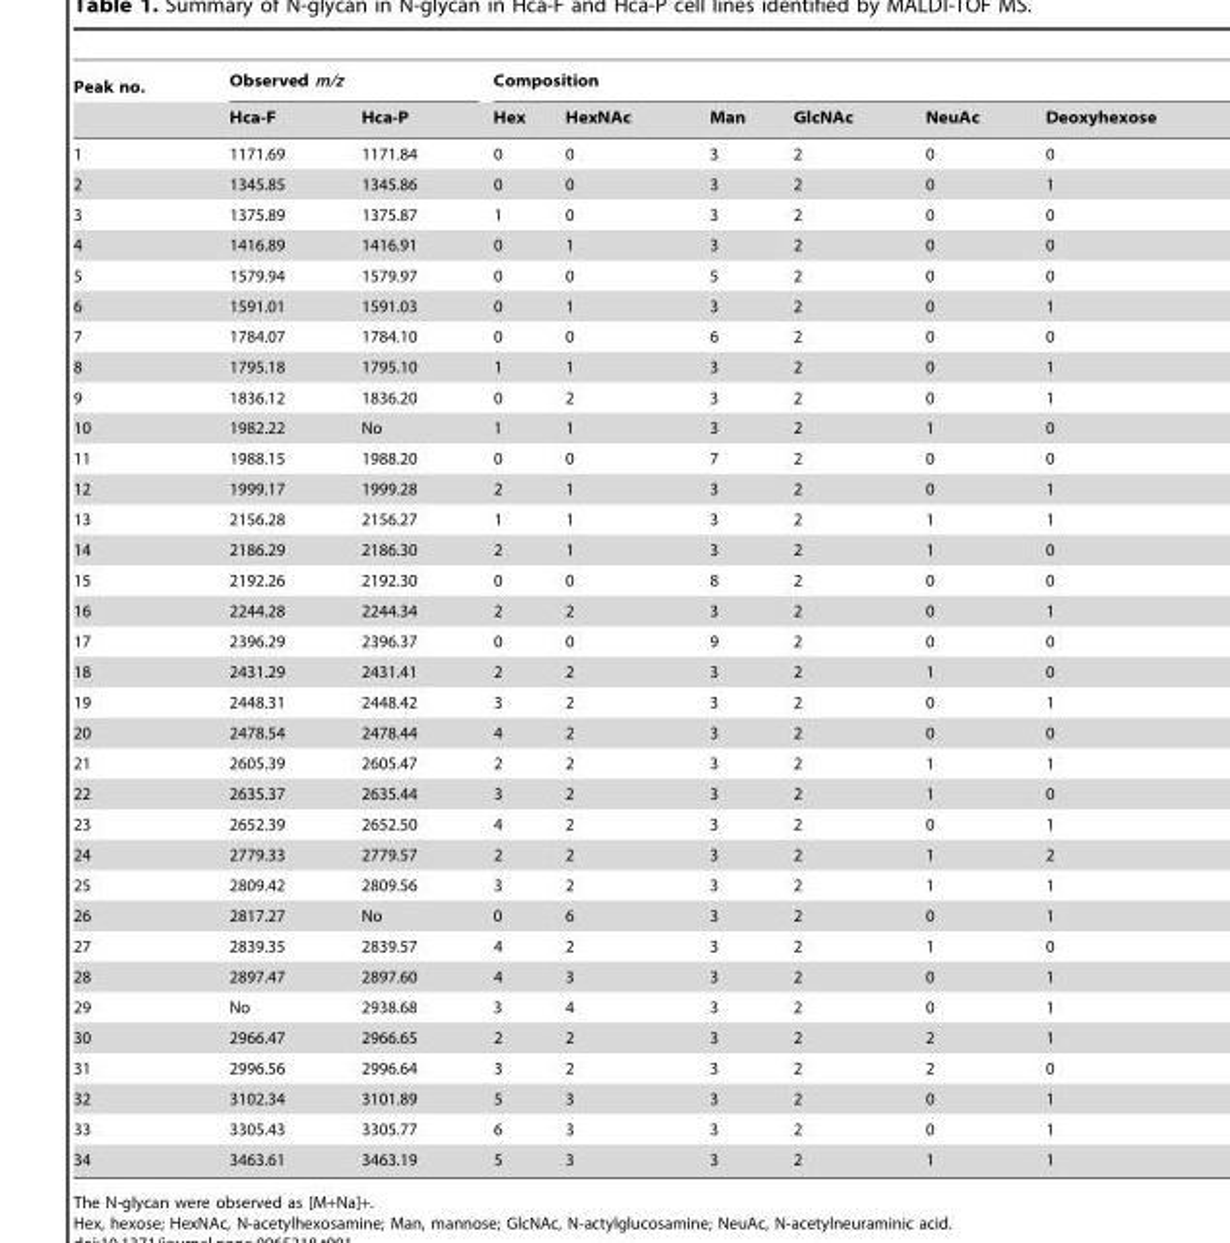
<table><thead><tr><td rowspan="2">Peak no.</td><td colspan="2">Observed m/z</td><td colspan="6">Composition</td></tr><tr><td>Hca-F</td><td>Hca-P</td><td>Hex</td><td>HexNAc</td><td>Man</td><td>GlcNAc</td><td>NeuAc</td><td>Deoxyhexose</td></tr></thead><tbody><tr><td>1</td><td>1171.69</td><td>1171.84</td><td>0</td><td>0</td><td>3</td><td>2</td><td>0</td><td>0</td></tr><tr><td>2</td><td>1345.85</td><td>1345.86</td><td>0</td><td>0</td><td>3</td><td>2</td><td>0</td><td>1</td></tr><tr><td>3</td><td>1375.89</td><td>1375.87</td><td>1</td><td>0</td><td>3</td><td>2</td><td>0</td><td>0</td></tr><tr><td>4</td><td>1416.89</td><td>1416.91</td><td>0</td><td>1</td><td>3</td><td>2</td><td>0</td><td>0</td></tr><tr><td>5</td><td>1579.94</td><td>1579.97</td><td>0</td><td>0</td><td>5</td><td>2</td><td>0</td><td>0</td></tr><tr><td>6</td><td>1591.01</td><td>1591.03</td><td>0</td><td>1</td><td>3</td><td>2</td><td>0</td><td>1</td></tr><tr><td>7</td><td>1784.07</td><td>1784.10</td><td>0</td><td>0</td><td>6</td><td>2</td><td>0</td><td>0</td></tr><tr><td>8</td><td>1795.18</td><td>1795.10</td><td>1</td><td>1</td><td>3</td><td>2</td><td>0</td><td>1</td></tr><tr><td>9</td><td>1836.12</td><td>1836.20</td><td>0</td><td>2</td><td>3</td><td>2</td><td>0</td><td>1</td></tr><tr><td>10</td><td>1982.22</td><td>No</td><td>1</td><td>1</td><td>3</td><td>2</td><td>1</td><td>0</td></tr><tr><td>11</td><td>1988.15</td><td>1988.20</td><td>0</td><td>0</td><td>7</td><td>2</td><td>0</td><td>0</td></tr><tr><td>12</td><td>1999.17</td><td>1999.28</td><td>2</td><td>1</td><td>3</td><td>2</td><td>0</td><td>1</td></tr><tr><td>13</td><td>2156.28</td><td>2156.27</td><td>1</td><td>1</td><td>3</td><td>2</td><td>1</td><td>1</td></tr><tr><td>14</td><td>2186.29</td><td>2186.30</td><td>2</td><td>1</td><td>3</td><td>2</td><td>1</td><td>0</td></tr><tr><td>15</td><td>2192.26</td><td>2192.30</td><td>0</td><td>0</td><td>8</td><td>2</td><td>0</td><td>0</td></tr><tr><td>16</td><td>2244.28</td><td>2244.34</td><td>2</td><td>2</td><td>3</td><td>2</td><td>0</td><td>1</td></tr><tr><td>17</td><td>2396.29</td><td>2396.37</td><td>0</td><td>0</td><td>9</td><td>2</td><td>0</td><td>0</td></tr><tr><td>18</td><td>2431.29</td><td>2431.41</td><td>2</td><td>2</td><td>3</td><td>2</td><td>1</td><td>0</td></tr><tr><td>19</td><td>2448.31</td><td>2448.42</td><td>3</td><td>2</td><td>3</td><td>2</td><td>0</td><td>1</td></tr><tr><td>20</td><td>2478.54</td><td>2478.44</td><td>4</td><td>2</td><td>3</td><td>2</td><td>0</td><td>0</td></tr><tr><td>21</td><td>2605.39</td><td>2605.47</td><td>2</td><td>2</td><td>3</td><td>2</td><td>1</td><td>1</td></tr><tr><td>22</td><td>2635.37</td><td>2635.44</td><td>3</td><td>2</td><td>3</td><td>2</td><td>1</td><td>0</td></tr><tr><td>23</td><td>2652.39</td><td>2652.50</td><td>4</td><td>2</td><td>3</td><td>2</td><td>0</td><td>1</td></tr><tr><td>24</td><td>2779.33</td><td>2779.57</td><td>2</td><td>2</td><td>3</td><td>2</td><td>1</td><td>2</td></tr><tr><td>25</td><td>2809.42</td><td>2809.56</td><td>3</td><td>2</td><td>3</td><td>2</td><td>1</td><td>1</td></tr><tr><td>26</td><td>2817.27</td><td>No</td><td>0</td><td>6</td><td>3</td><td>2</td><td>0</td><td>1</td></tr><tr><td>27</td><td>2839.35</td><td>2839.57</td><td>4</td><td>2</td><td>3</td><td>2</td><td>1</td><td>0</td></tr><tr><td>28</td><td>2897.47</td><td>2897.60</td><td>4</td><td>3</td><td>3</td><td>2</td><td>0</td><td>1</td></tr><tr><td>29</td><td>No</td><td>2938.68</td><td>3</td><td>4</td><td>3</td><td>2</td><td>0</td><td>1</td></tr><tr><td>30</td><td>2966.47</td><td>2966.65</td><td>2</td><td>2</td><td>3</td><td>2</td><td>2</td><td>1</td></tr><tr><td>31</td><td>2996.56</td><td>2996.64</td><td>3</td><td>2</td><td>3</td><td>2</td><td>2</td><td>0</td></tr><tr><td>32</td><td>3102.34</td><td>3101.89</td><td>5</td><td>3</td><td>3</td><td>2</td><td>0</td><td>1</td></tr><tr><td>33</td><td>3305.43</td><td>3305.77</td><td>6</td><td>3</td><td>3</td><td>2</td><td>0</td><td>1</td></tr><tr><td>34</td><td>3463.61</td><td>3463.19</td><td>5</td><td>3</td><td>3</td><td>2</td><td>1</td><td>1</td></tr></tbody></table>